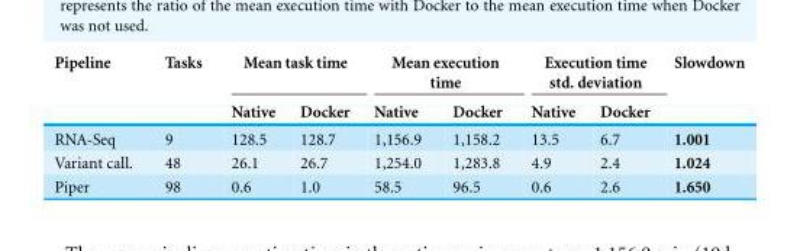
<table><thead><tr><td rowspan="2">Pipeline</td><td rowspan="2">Tasks</td><td colspan="2">Mean task time</td><td colspan="2">Mean execution time</td><td colspan="2">Execution time std. deviation</td><td rowspan="2">Slowdown</td></tr><tr><td>Native</td><td>Docker</td><td>Native</td><td>Docker</td><td>Native</td><td>Docker</td></tr></thead><tbody><tr><td>RNA-Seq</td><td>9</td><td>128.5</td><td>128.7</td><td>1,156.9</td><td>1,158.2</td><td>13.5</td><td>6.7</td><td>1.001</td></tr><tr><td>Variant call.</td><td>48</td><td>26.1</td><td>26.7</td><td>1,254.0</td><td>1,283.8</td><td>4.9</td><td>2.4</td><td>1.024</td></tr><tr><td>Piper</td><td>98</td><td>0.6</td><td>1.0</td><td>58.5</td><td>96.5</td><td>0.6</td><td>2.6</td><td>1.650</td></tr></tbody></table>